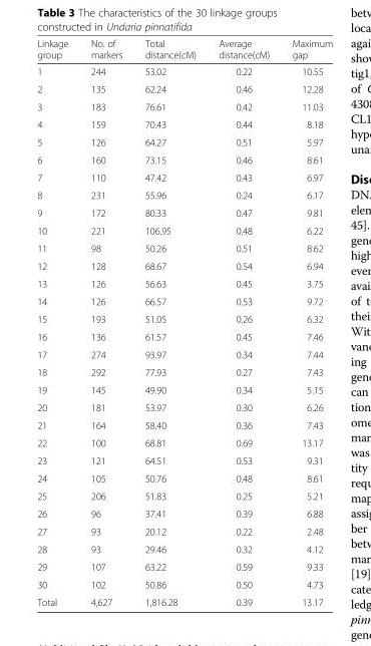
<table><thead><tr><td>Linkage group</td><td>No. of markers</td><td>Total distance(cM)</td><td>Average distance(cM)</td><td>Maximum gap</td></tr></thead><tbody><tr><td>1</td><td>244</td><td>53.02</td><td>0.22</td><td>10.55</td></tr><tr><td>2</td><td>135</td><td>62.24</td><td>0.46</td><td>12.28</td></tr><tr><td>3</td><td>183</td><td>76.61</td><td>0.42</td><td>11.03</td></tr><tr><td>4</td><td>159</td><td>70.43</td><td>0.44</td><td>8.18</td></tr><tr><td>5</td><td>126</td><td>64.27</td><td>0.51</td><td>5.97</td></tr><tr><td>6</td><td>160</td><td>73.15</td><td>0.46</td><td>8.61</td></tr><tr><td>7</td><td>110</td><td>47.42</td><td>0.43</td><td>6.97</td></tr><tr><td>8</td><td>231</td><td>55.96</td><td>0.24</td><td>6.17</td></tr><tr><td>9</td><td>172</td><td>80.33</td><td>0.47</td><td>9.81</td></tr><tr><td>10</td><td>221</td><td>106.95</td><td>0.48</td><td>6.22</td></tr><tr><td>11</td><td>98</td><td>50.26</td><td>0.51</td><td>8.62</td></tr><tr><td>12</td><td>128</td><td>68.67</td><td>0.54</td><td>6.94</td></tr><tr><td>13</td><td>126</td><td>56.63</td><td>0.45</td><td>3.75</td></tr><tr><td>14</td><td>126</td><td>66.57</td><td>0.53</td><td>9.72</td></tr><tr><td>15</td><td>193</td><td>51.05</td><td>0.26</td><td>6.32</td></tr><tr><td>16</td><td>136</td><td>61.57</td><td>0.45</td><td>7.46</td></tr><tr><td>17</td><td>274</td><td>93.97</td><td>0.34</td><td>7.44</td></tr><tr><td>18</td><td>292</td><td>77.93</td><td>0.27</td><td>7.43</td></tr><tr><td>19</td><td>145</td><td>49.90</td><td>0.34</td><td>5.15</td></tr><tr><td>20</td><td>181</td><td>53.97</td><td>0.30</td><td>6.26</td></tr><tr><td>21</td><td>164</td><td>58.40</td><td>0.36</td><td>7.43</td></tr><tr><td>22</td><td>100</td><td>68.81</td><td>0.69</td><td>13.17</td></tr><tr><td>23</td><td>121</td><td>64.51</td><td>0.53</td><td>9.31</td></tr><tr><td>24</td><td>105</td><td>50.76</td><td>0.48</td><td>8.61</td></tr><tr><td>25</td><td>206</td><td>51.83</td><td>0.25</td><td>5.21</td></tr><tr><td>26</td><td>96</td><td>37.41</td><td>0.39</td><td>6.88</td></tr><tr><td>27</td><td>93</td><td>20.12</td><td>0.22</td><td>2.48</td></tr><tr><td>28</td><td>93</td><td>29.46</td><td>0.32</td><td>4.12</td></tr><tr><td>29</td><td>107</td><td>63.22</td><td>0.59</td><td>9.33</td></tr><tr><td>30</td><td>102</td><td>50.86</td><td>0.50</td><td>4.73</td></tr><tr><td>Total</td><td>4,627</td><td>1,816.28</td><td>0.39</td><td>13.17</td></tr></tbody></table>